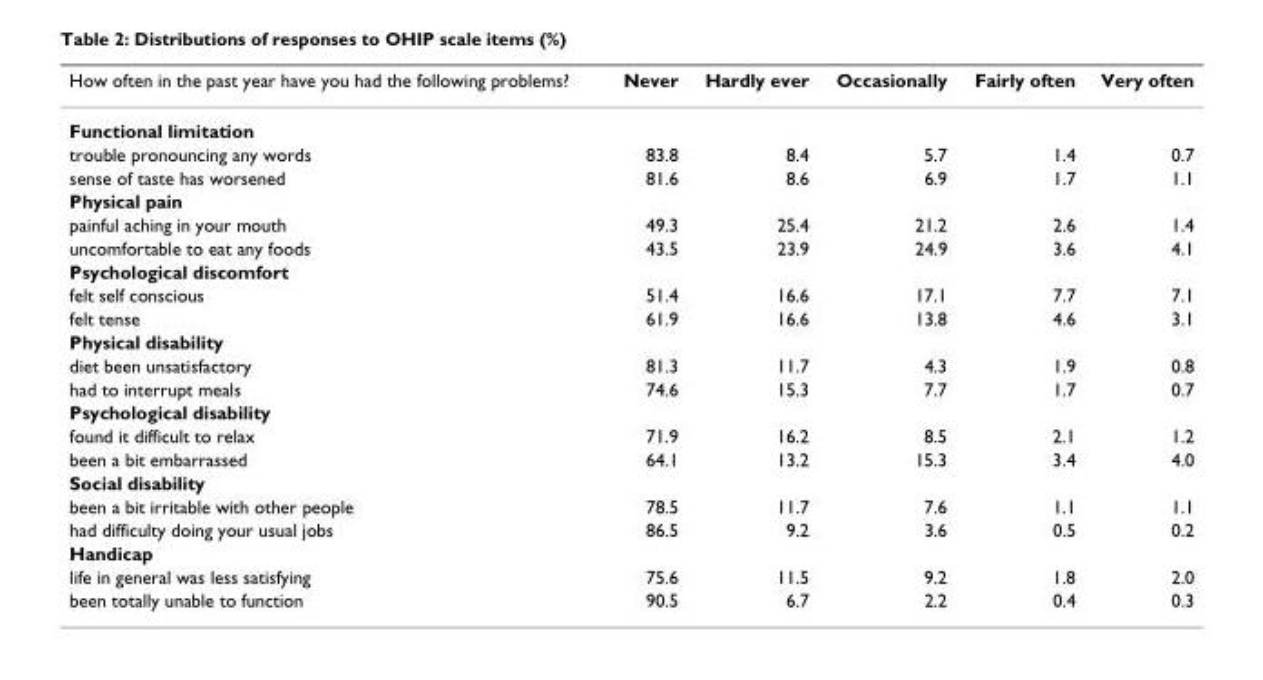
<table><thead><tr><td>How often in the past year have you had the following problems?</td><td>Never</td><td>Hardly ever</td><td>Occasionally</td><td>Fairly often</td><td>Very often</td></tr></thead><tbody><tr><td colspan="6">Functional limitation</td></tr><tr><td>trouble pronouncing any words</td><td>83.8</td><td>8.4</td><td>5.7</td><td>1.4</td><td>0.7</td></tr><tr><td>sense of taste has worsened</td><td>81.6</td><td>8.6</td><td>6.9</td><td>1.7</td><td>1.1</td></tr><tr><td colspan="6">Physical pain</td></tr><tr><td>painful aching in your mouth</td><td>49.3</td><td>25.4</td><td>21.2</td><td>2.6</td><td>1.4</td></tr><tr><td>uncomfortable to eat any foods</td><td>43.5</td><td>23.9</td><td>24.9</td><td>3.6</td><td>4.1</td></tr><tr><td colspan="6">Psychological discomfort</td></tr><tr><td>felt self conscious</td><td>51.4</td><td>16.6</td><td>17.1</td><td>7.7</td><td>7.1</td></tr><tr><td>felt tense</td><td>61.9</td><td>16.6</td><td>13.8</td><td>4.6</td><td>3.1</td></tr><tr><td colspan="6">Physical disability</td></tr><tr><td>diet been unsatisfactory</td><td>81.3</td><td>11.7</td><td>4.3</td><td>1.9</td><td>0.8</td></tr><tr><td>had to interrupt meals</td><td>74.6</td><td>15.3</td><td>7.7</td><td>1.7</td><td>0.7</td></tr><tr><td colspan="6">Psychological disability</td></tr><tr><td>found it difficult to relax</td><td>71.9</td><td>16.2</td><td>8.5</td><td>2.1</td><td>1.2</td></tr><tr><td>been a bit embarrassed</td><td>64.1</td><td>13.2</td><td>15.3</td><td>3.4</td><td>4.0</td></tr><tr><td colspan="6">Social disability</td></tr><tr><td>been a bit irritable with other people</td><td>78.5</td><td>11.7</td><td>7.6</td><td>1.1</td><td>1.1</td></tr><tr><td>had difficulty doing your usual jobs</td><td>86.5</td><td>9.2</td><td>3.6</td><td>0.5</td><td>0.2</td></tr><tr><td colspan="6">Handicap</td></tr><tr><td>life in general was less satisfying</td><td>75.6</td><td>11.5</td><td>9.2</td><td>1.8</td><td>2.0</td></tr><tr><td>been totally unable to function</td><td>90.5</td><td>6.7</td><td>2.2</td><td>0.4</td><td>0.3</td></tr></tbody></table>